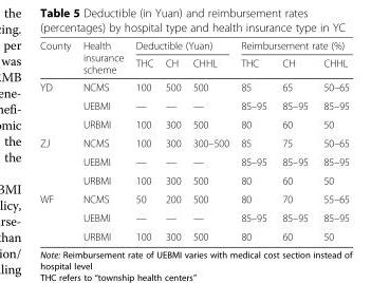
<table><thead><tr><td rowspan="2">County</td><td rowspan="2">Health insurance scheme</td><td colspan="3">Deductible (Yuan)</td><td colspan="3">Reimbursement rate (%)</td></tr><tr><td>THC</td><td>CH</td><td>CHHL</td><td>THC</td><td>CH</td><td>CHHL</td></tr></thead><tbody><tr><td rowspan="3">YD</td><td>NCMS</td><td>100</td><td>500</td><td>500</td><td>85</td><td>65</td><td>50–65</td></tr><tr><td>UEBMI</td><td>—</td><td>—</td><td>—</td><td>85–95</td><td>85–95</td><td>85–95</td></tr><tr><td>URBMI</td><td>100</td><td>300</td><td>500</td><td>80</td><td>60</td><td>50</td></tr><tr><td rowspan="3">ZJ</td><td>NCMS</td><td>100</td><td>300</td><td>300–500</td><td>85</td><td>75</td><td>50–65</td></tr><tr><td>UEBMI</td><td>—</td><td>—</td><td>—</td><td>85–95</td><td>85–95</td><td>85–95</td></tr><tr><td>URBMI</td><td>100</td><td>300</td><td>500</td><td>80</td><td>60</td><td>50</td></tr><tr><td rowspan="3">WF</td><td>NCMS</td><td>50</td><td>200</td><td>500</td><td>80</td><td>70</td><td>55–65</td></tr><tr><td>UEBMI</td><td>—</td><td>—</td><td>—</td><td>85–95</td><td>85–95</td><td>85–95</td></tr><tr><td>URBMI</td><td>100</td><td>300</td><td>500</td><td>80</td><td>60</td><td>50</td></tr></tbody></table>